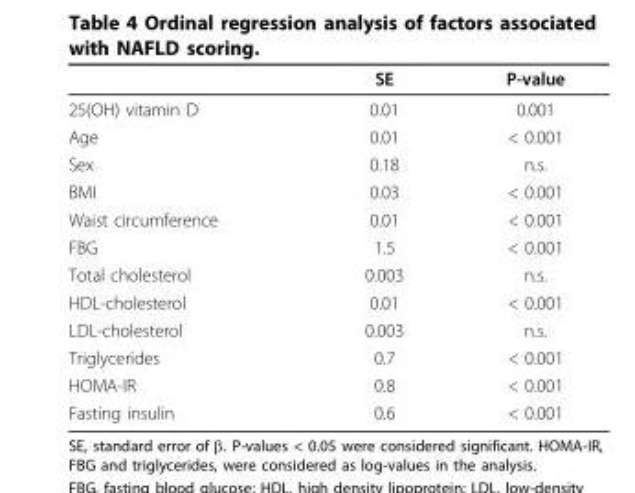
<table><thead><tr><td></td><td>SE</td><td>P-value</td></tr></thead><tbody><tr><td>25(OH) vitamin D</td><td>0.01</td><td>0.001</td></tr><tr><td>Age</td><td>0.01</td><td>&lt; 0.001</td></tr><tr><td>Sex</td><td>0.18</td><td>n.s.</td></tr><tr><td>BMI</td><td>0.03</td><td>&lt; 0.001</td></tr><tr><td>Waist circumference</td><td>0.01</td><td>&lt; 0.001</td></tr><tr><td>FBG</td><td>1.5</td><td>&lt; 0.001</td></tr><tr><td>Total cholesterol</td><td>0.003</td><td>n.s.</td></tr><tr><td>HDL-cholesterol</td><td>0.01</td><td>&lt; 0.001</td></tr><tr><td>LDL-cholesterol</td><td>0.003</td><td>n.s.</td></tr><tr><td>Triglycerides</td><td>0.7</td><td>&lt; 0.001</td></tr><tr><td>HOMA-IR</td><td>0.8</td><td>&lt; 0.001</td></tr><tr><td>Fasting insulin</td><td>0.6</td><td>&lt; 0.001</td></tr></tbody></table>